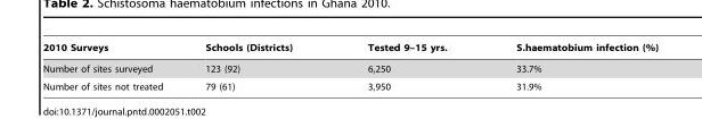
<table><thead><tr><td>2010 Surveys</td><td>Schools (Districts)</td><td>Tested 9–15 yrs.</td><td>S.haematobium infection (%)</td></tr></thead><tbody><tr><td>Number of sites surveyed</td><td>123 (92)</td><td>6,250</td><td>33.7%</td></tr><tr><td>Number of sites not treated</td><td>79 (61)</td><td>3,950</td><td>31.9%</td></tr></tbody></table>